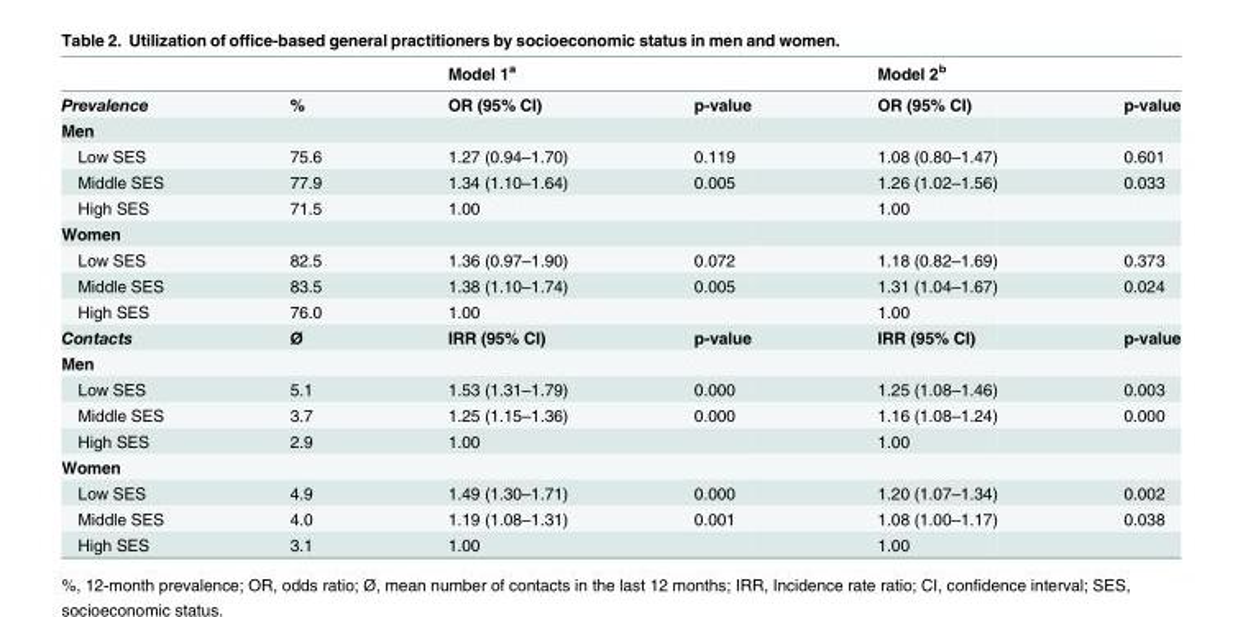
<table><thead><tr><td rowspan="2">Prevalence</td><td rowspan="2">%</td><td colspan="2">Model 1<sup>a</sup></td><td colspan="2">Model 2<sup>b</sup></td></tr><tr><td>OR (95% CI)</td><td>p-value</td><td>OR (95% CI)</td><td>p-value</td></tr></thead><tbody><tr><td colspan="6">Men</td></tr><tr><td>Low SES</td><td>75.6</td><td>1.27 (0.94–1.70)</td><td>0.119</td><td>1.08 (0.80–1.47)</td><td>0.601</td></tr><tr><td>Middle SES</td><td>77.9</td><td>1.34 (1.10–1.64)</td><td>0.005</td><td>1.26 (1.02–1.56)</td><td>0.033</td></tr><tr><td>High SES</td><td>71.5</td><td>1.00</td><td></td><td>1.00</td><td></td></tr><tr><td colspan="6">Women</td></tr><tr><td>Low SES</td><td>82.5</td><td>1.36 (0.97–1.90)</td><td>0.072</td><td>1.18 (0.82–1.69)</td><td>0.373</td></tr><tr><td>Middle SES</td><td>83.5</td><td>1.38 (1.10–1.74)</td><td>0.005</td><td>1.31 (1.04–1.67)</td><td>0.024</td></tr><tr><td>High SES</td><td>76.0</td><td>1.00</td><td></td><td>1.00</td><td></td></tr><tr><td>Contacts</td><td>Ø</td><td>IRR (95% CI)</td><td>p-value</td><td>IRR (95% CI)</td><td>p-value</td></tr><tr><td colspan="6">Men</td></tr><tr><td>Low SES</td><td>5.1</td><td>1.53 (1.31–1.79)</td><td>0.000</td><td>1.25 (1.08–1.46)</td><td>0.003</td></tr><tr><td>Middle SES</td><td>3.7</td><td>1.25 (1.15–1.36)</td><td>0.000</td><td>1.16 (1.08–1.24)</td><td>0.000</td></tr><tr><td>High SES</td><td>2.9</td><td>1.00</td><td></td><td>1.00</td><td></td></tr><tr><td colspan="6">Women</td></tr><tr><td>Low SES</td><td>4.9</td><td>1.49 (1.30–1.71)</td><td>0.000</td><td>1.20 (1.07–1.34)</td><td>0.002</td></tr><tr><td>Middle SES</td><td>4.0</td><td>1.19 (1.08–1.31)</td><td>0.001</td><td>1.08 (1.00–1.17)</td><td>0.038</td></tr><tr><td>High SES</td><td>3.1</td><td>1.00</td><td></td><td>1.00</td><td></td></tr></tbody></table>